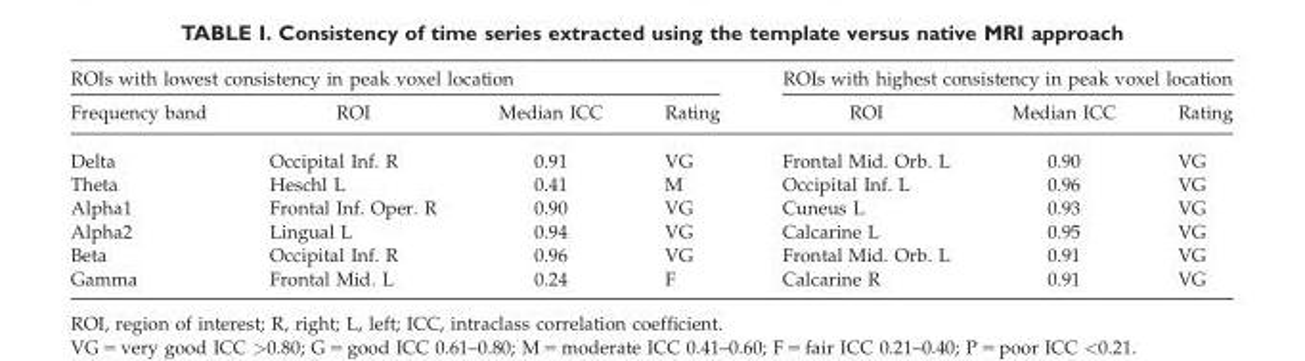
<table><thead><tr><td colspan="4">ROIs with lowest consistency in peak voxel location</td><td colspan="3">ROIs with highest consistency in peak voxel location</td></tr><tr><td>Frequency band</td><td>ROI</td><td>Median ICC</td><td>Rating</td><td>ROI</td><td>Median ICC</td><td>Rating</td></tr></thead><tbody><tr><td>Delta</td><td>Occipital Inf. R</td><td>0.91</td><td>VG</td><td>Frontal Mid. Orb. L</td><td>0.90</td><td>VG</td></tr><tr><td>Theta</td><td>Heschl L</td><td>0.41</td><td>M</td><td>Occipital Inf. L</td><td>0.96</td><td>VG</td></tr><tr><td>Alpha1</td><td>Frontal Inf. Oper. R</td><td>0.90</td><td>VG</td><td>Cuneus L</td><td>0.93</td><td>VG</td></tr><tr><td>Alpha2</td><td>Lingual L</td><td>0.94</td><td>VG</td><td>Calcarine L</td><td>0.95</td><td>VG</td></tr><tr><td>Beta</td><td>Occipital Inf. R</td><td>0.96</td><td>VG</td><td>Frontal Mid. Orb. L</td><td>0.91</td><td>VG</td></tr><tr><td>Gamma</td><td>Frontal Mid. L</td><td>0.24</td><td>F</td><td>Calcarine R</td><td>0.91</td><td>VG</td></tr></tbody></table>